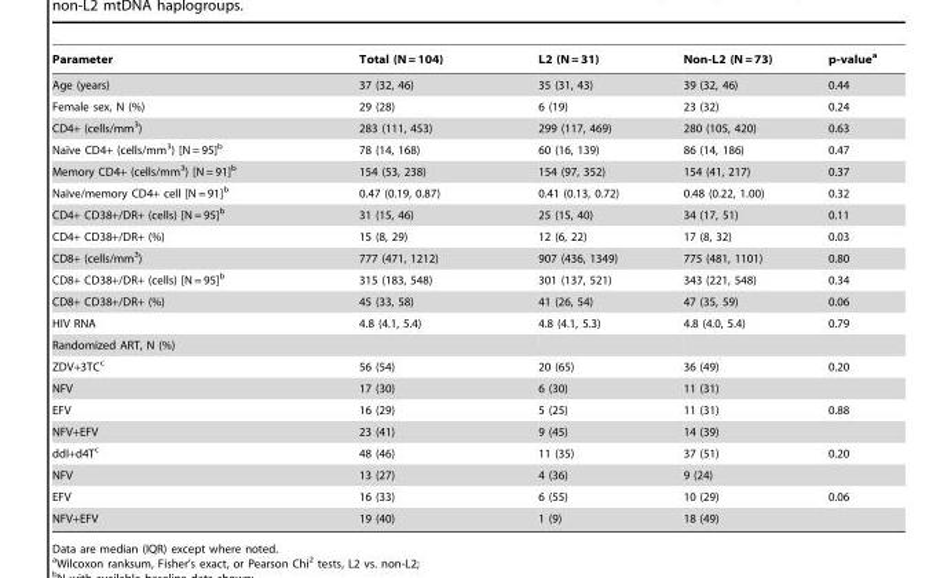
<table><thead><tr><td>Parameter</td><td>Total (N = 104)</td><td>L2 (N = 31)</td><td>Non-L2 (N = 73)</td><td>p-value<sup>a</sup></td></tr></thead><tbody><tr><td>Age (years)</td><td>37 (32, 46)</td><td>35 (31, 43)</td><td>39 (32, 46)</td><td>0.44</td></tr><tr><td>Female sex, N (%)</td><td>29 (28)</td><td>6 (19)</td><td>23 (32)</td><td>0.24</td></tr><tr><td>CD4+ (cells/mm<sup>3</sup>)</td><td>283 (111, 453)</td><td>299 (117, 469)</td><td>280 (105, 420)</td><td>0.63</td></tr><tr><td>Naı¨ve CD4+ (cells/mm3) [N = 95]b</td><td>78 (14, 168)</td><td>60 (16, 139)</td><td>86 (14, 186)</td><td>0.47</td></tr><tr><td>Memory CD4+ (cells/mm<sup>3</sup>) [N = 91]<sup>b</sup></td><td>154 (53, 238)</td><td>154 (97, 352)</td><td>154 (41, 217)</td><td>0.37</td></tr><tr><td>Naı¨ve/memory CD4+ cell [N = 91]b</td><td>0.47 (0.19, 0.87)</td><td>0.41 (0.13, 0.72)</td><td>0.48 (0.22, 1.00)</td><td>0.32</td></tr><tr><td>CD4+ CD38+/DR+ (cells) [N = 95]<sup>b</sup></td><td>31 (15, 46)</td><td>25 (15, 40)</td><td>34 (17, 51)</td><td>0.11</td></tr><tr><td>CD4+ CD38+/DR+ (%)</td><td>15 (8, 29)</td><td>12 (6, 22)</td><td>17 (8, 32)</td><td>0.03</td></tr><tr><td>CD8+ (cells/mm<sup>3</sup>)</td><td>777 (471, 1212)</td><td>907 (436, 1349)</td><td>775 (481, 1101)</td><td>0.80</td></tr><tr><td>CD8+ CD38+/DR+ (cells) [N = 95]<sup>b</sup></td><td>315 (183, 548)</td><td>301 (137, 521)</td><td>343 (221, 548)</td><td>0.34</td></tr><tr><td>CD8+ CD38+/DR+ (%)</td><td>45 (33, 58)</td><td>41 (26, 54)</td><td>47 (35, 59)</td><td>0.06</td></tr><tr><td>HIV RNA</td><td>4.8 (4.1, 5.4)</td><td>4.8 (4.1, 5.3)</td><td>4.8 (4.0, 5.4)</td><td>0.79</td></tr><tr><td colspan="5">Randomized ART, N (%)</td></tr><tr><td>ZDV+3TC<sup>c</sup></td><td>56 (54)</td><td>20 (65)</td><td>36 (49)</td><td>0.20</td></tr><tr><td>NFV</td><td>17 (30)</td><td>6 (30)</td><td>11 (31)</td><td></td></tr><tr><td>EFV</td><td>16 (29)</td><td>5 (25)</td><td>11 (31)</td><td>0.88</td></tr><tr><td>NFV+EFV</td><td>23 (41)</td><td>9 (45)</td><td>14 (39)</td><td></td></tr><tr><td>ddI+d4T<sup>c</sup></td><td>48 (46)</td><td>11 (35)</td><td>37 (51)</td><td>0.20</td></tr><tr><td>NFV</td><td>13 (27)</td><td>4 (36)</td><td>9 (24)</td><td></td></tr><tr><td>EFV</td><td>16 (33)</td><td>6 (55)</td><td>10 (29)</td><td>0.06</td></tr><tr><td>NFV+EFV</td><td>19 (40)</td><td>1 (9)</td><td>18 (49)</td><td></td></tr></tbody></table>